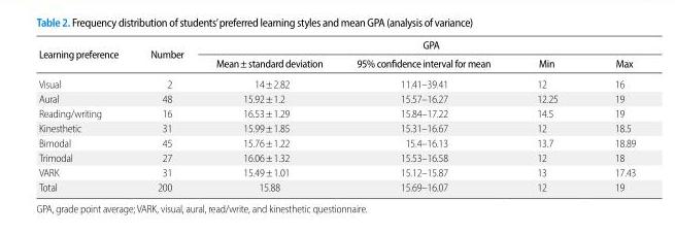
<table><thead><tr><td rowspan="2">Learning preference</td><td rowspan="2">Number</td><td colspan="4">GPA</td></tr><tr><td>Mean±standard deviation</td><td>95% confidence interval for mean</td><td>Min</td><td>Max</td></tr></thead><tbody><tr><td>Visual</td><td>2</td><td>14±2.82</td><td>11.41–39.41</td><td>12</td><td>16</td></tr><tr><td>Aural</td><td>48</td><td>15.92±1.2</td><td>15.57–16.27</td><td>12.25</td><td>19</td></tr><tr><td>Reading/writing</td><td>16</td><td>16.53±1.29</td><td>15.84–17.22</td><td>14.5</td><td>19</td></tr><tr><td>Kinesthetic</td><td>31</td><td>15.99±1.85</td><td>15.31–16.67</td><td>12</td><td>18.5</td></tr><tr><td>Bimodal</td><td>45</td><td>15.76±1.22</td><td>15.4–16.13</td><td>13.7</td><td>18.89</td></tr><tr><td>Trimodal</td><td>27</td><td>16.06±1.32</td><td>15.53–16.58</td><td>12</td><td>18</td></tr><tr><td>VARK</td><td>31</td><td>15.49±1.01</td><td>15.12–15.87</td><td>13</td><td>17.43</td></tr><tr><td>Total</td><td>200</td><td>15.88</td><td>15.69–16.07</td><td>12</td><td>19</td></tr></tbody></table>